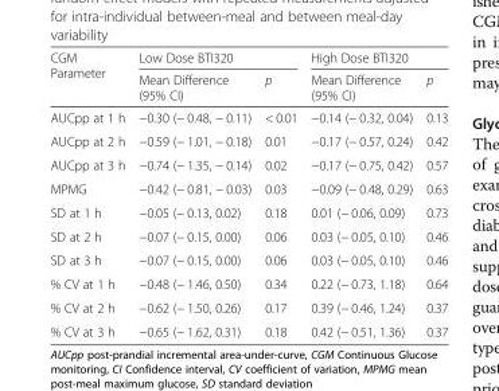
<table><thead><tr><td rowspan="2">CGM Parameter</td><td colspan="2">Low Dose BTI320</td><td colspan="2">High Dose BTI320</td></tr><tr><td>Mean Difference (95% CI)</td><td>p</td><td>Mean Difference (95% CI)</td><td>p</td></tr></thead><tbody><tr><td>AUCpp at 1 h</td><td>−0.30 (− 0.48, − 0.11)</td><td>&lt; 0.01</td><td>−0.14 (− 0.32, 0.04)</td><td>0.13</td></tr><tr><td>AUCpp at 2 h</td><td>−0.59 (− 1.01, − 0.18)</td><td>0.01</td><td>−0.17 (− 0.57, 0.24)</td><td>0.42</td></tr><tr><td>AUCpp at 3 h</td><td>−0.74 (− 1.35, − 0.14)</td><td>0.02</td><td>−0.17 (− 0.75, 0.42)</td><td>0.57</td></tr><tr><td>MPMG</td><td>−0.42 (− 0.81, − 0.03)</td><td>0.03</td><td>−0.09 (− 0.48, 0.29)</td><td>0.63</td></tr><tr><td>SD at 1 h</td><td>−0.05 (− 0.13, 0.02)</td><td>0.18</td><td>0.01 (− 0.06, 0.09)</td><td>0.73</td></tr><tr><td>SD at 2 h</td><td>−0.07 (− 0.15, 0.00)</td><td>0.06</td><td>0.03 (− 0.05, 0.10)</td><td>0.46</td></tr><tr><td>SD at 3 h</td><td>−0.07 (− 0.15, 0.00)</td><td>0.06</td><td>0.03 (− 0.05, 0.10)</td><td>0.46</td></tr><tr><td>% CV at 1 h</td><td>−0.48 (− 1.46, 0.50)</td><td>0.34</td><td>0.22 (− 0.73, 1.18)</td><td>0.64</td></tr><tr><td>% CV at 2 h</td><td>−0.62 (− 1.50, 0.26)</td><td>0.17</td><td>0.39 (− 0.46, 1.24)</td><td>0.37</td></tr><tr><td>% CV at 3 h</td><td>−0.65 (− 1.62, 0.31)</td><td>0.18</td><td>0.42 (− 0.51, 1.36)</td><td>0.37</td></tr></tbody></table>